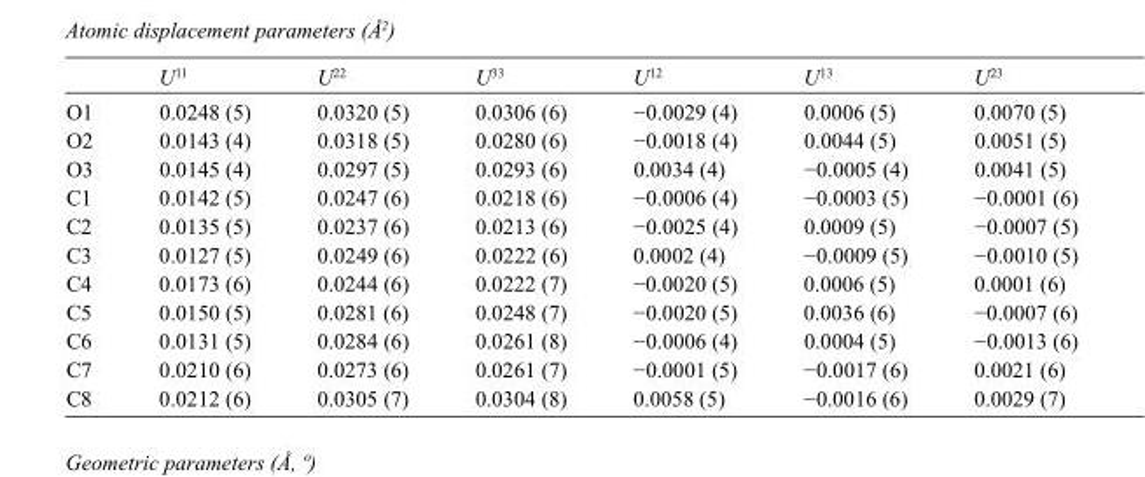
<table><thead><tr><td></td><td>U<sup>11</sup></td><td>U<sup>22</sup></td><td>U<sup>33</sup></td><td>U<sup>12</sup></td><td>U<sup>13</sup></td><td>U<sup>23</sup></td></tr></thead><tbody><tr><td>O1</td><td>0.0248 (5)</td><td>0.0320 (5)</td><td>0.0306 (6)</td><td>−0.0029 (4)</td><td>0.0006 (5)</td><td>0.0070 (5)</td></tr><tr><td>O2</td><td>0.0143 (4)</td><td>0.0318 (5)</td><td>0.0280 (6)</td><td>−0.0018 (4)</td><td>0.0044 (5)</td><td>0.0051 (5)</td></tr><tr><td>O3</td><td>0.0145 (4)</td><td>0.0297 (5)</td><td>0.0293 (6)</td><td>0.0034 (4)</td><td>−0.0005 (4)</td><td>0.0041 (5)</td></tr><tr><td>C1</td><td>0.0142 (5)</td><td>0.0247 (6)</td><td>0.0218 (6)</td><td>−0.0006 (4)</td><td>−0.0003 (5)</td><td>−0.0001 (6)</td></tr><tr><td>C2</td><td>0.0135 (5)</td><td>0.0237 (6)</td><td>0.0213 (6)</td><td>−0.0025 (4)</td><td>0.0009 (5)</td><td>−0.0007 (5)</td></tr><tr><td>C3</td><td>0.0127 (5)</td><td>0.0249 (6)</td><td>0.0222 (6)</td><td>0.0002 (4)</td><td>−0.0009 (5)</td><td>−0.0010 (5)</td></tr><tr><td>C4</td><td>0.0173 (6)</td><td>0.0244 (6)</td><td>0.0222 (7)</td><td>−0.0020 (5)</td><td>0.0006 (5)</td><td>0.0001 (6)</td></tr><tr><td>C5</td><td>0.0150 (5)</td><td>0.0281 (6)</td><td>0.0248 (7)</td><td>−0.0020 (5)</td><td>0.0036 (6)</td><td>−0.0007 (6)</td></tr><tr><td>C6</td><td>0.0131 (5)</td><td>0.0284 (6)</td><td>0.0261 (8)</td><td>−0.0006 (4)</td><td>0.0004 (5)</td><td>−0.0013 (6)</td></tr><tr><td>C7</td><td>0.0210 (6)</td><td>0.0273 (6)</td><td>0.0261 (7)</td><td>−0.0001 (5)</td><td>−0.0017 (6)</td><td>0.0021 (6)</td></tr><tr><td>C8</td><td>0.0212 (6)</td><td>0.0305 (7)</td><td>0.0304 (8)</td><td>0.0058 (5)</td><td>−0.0016 (6)</td><td>0.0029 (7)</td></tr></tbody></table>